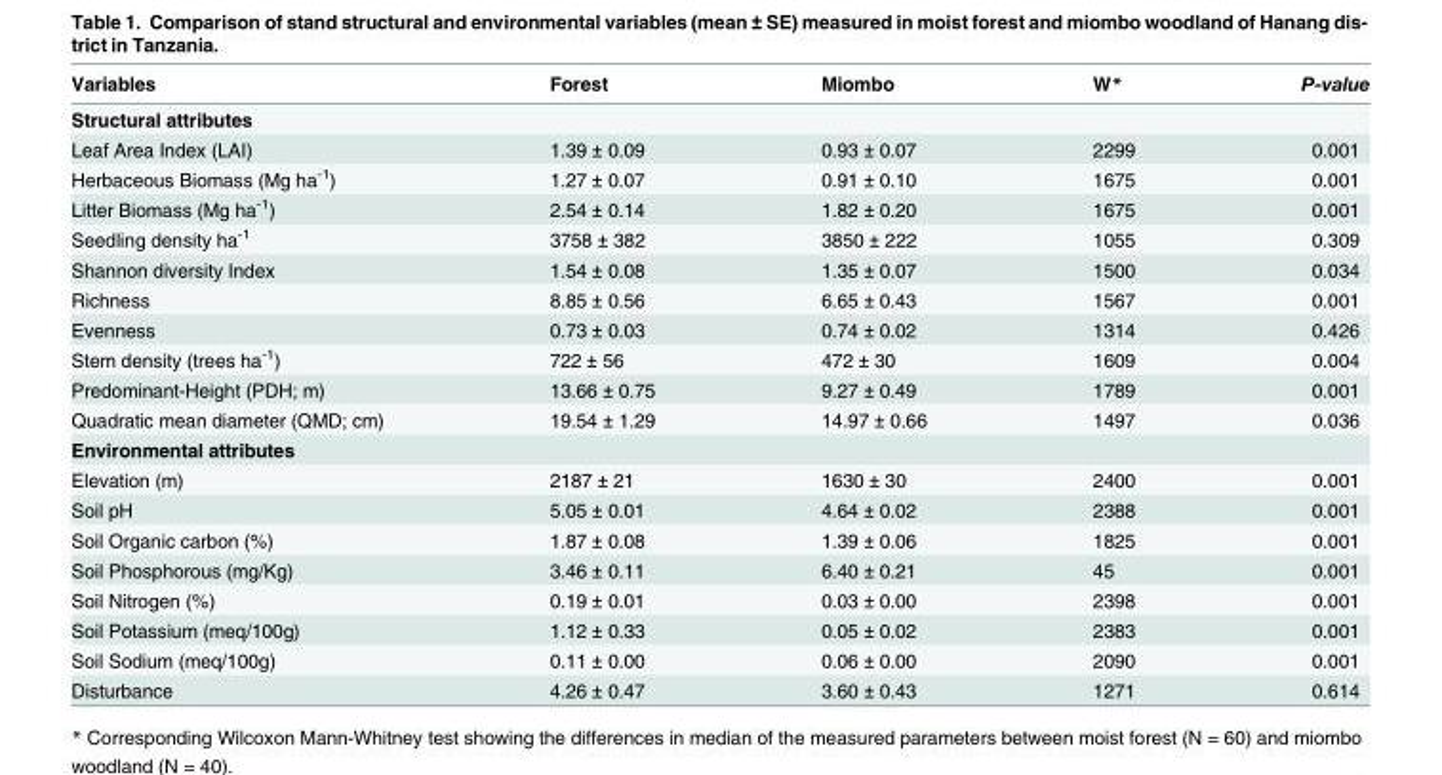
<table><thead><tr><td>Variables</td><td>Forest</td><td>Miombo</td><td>W*</td><td>P-value</td></tr></thead><tbody><tr><td colspan="5">Structural attributes</td></tr><tr><td>Leaf Area Index (LAI)</td><td>1.39 ± 0.09</td><td>0.93 ± 0.07</td><td>2299</td><td>0.001</td></tr><tr><td>Herbaceous Biomass (Mg ha<sup>-1</sup>)</td><td>1.27 ± 0.07</td><td>0.91 ± 0.10</td><td>1675</td><td>0.001</td></tr><tr><td>Litter Biomass (Mg ha<sup>-1</sup>)</td><td>2.54 ± 0.14</td><td>1.82 ± 0.20</td><td>1675</td><td>0.001</td></tr><tr><td>Seedling density ha<sup>-1</sup></td><td>3758 ± 382</td><td>3850 ± 222</td><td>1055</td><td>0.309</td></tr><tr><td>Shannon diversity Index</td><td>1.54 ± 0.08</td><td>1.35 ± 0.07</td><td>1500</td><td>0.034</td></tr><tr><td>Richness</td><td>8.85 ± 0.56</td><td>6.65 ± 0.43</td><td>1567</td><td>0.001</td></tr><tr><td>Evenness</td><td>0.73 ± 0.03</td><td>0.74 ± 0.02</td><td>1314</td><td>0.426</td></tr><tr><td>Stem density (trees ha<sup>-1</sup>)</td><td>722 ± 56</td><td>472 ± 30</td><td>1609</td><td>0.004</td></tr><tr><td>Predominant-Height (PDH; m)</td><td>13.66 ± 0.75</td><td>9.27 ± 0.49</td><td>1789</td><td>0.001</td></tr><tr><td>Quadratic mean diameter (QMD; cm)</td><td>19.54 ± 1.29</td><td>14.97 ± 0.66</td><td>1497</td><td>0.036</td></tr><tr><td colspan="5">Environmental attributes</td></tr><tr><td>Elevation (m)</td><td>2187 ± 21</td><td>1630 ± 30</td><td>2400</td><td>0.001</td></tr><tr><td>Soil pH</td><td>5.05 ± 0.01</td><td>4.64 ± 0.02</td><td>2388</td><td>0.001</td></tr><tr><td>Soil Organic carbon (%)</td><td>1.87 ± 0.08</td><td>1.39 ± 0.06</td><td>1825</td><td>0.001</td></tr><tr><td>Soil Phosphorous (mg/Kg)</td><td>3.46 ± 0.11</td><td>6.40 ± 0.21</td><td>45</td><td>0.001</td></tr><tr><td>Soil Nitrogen (%)</td><td>0.19 ± 0.01</td><td>0.03 ± 0.00</td><td>2398</td><td>0.001</td></tr><tr><td>Soil Potassium (meq/100g)</td><td>1.12 ± 0.33</td><td>0.05 ± 0.02</td><td>2383</td><td>0.001</td></tr><tr><td>Soil Sodium (meq/100g)</td><td>0.11 ± 0.00</td><td>0.06 ± 0.00</td><td>2090</td><td>0.001</td></tr><tr><td>Disturbance</td><td>4.26 ± 0.47</td><td>3.60 ± 0.43</td><td>1271</td><td>0.614</td></tr></tbody></table>